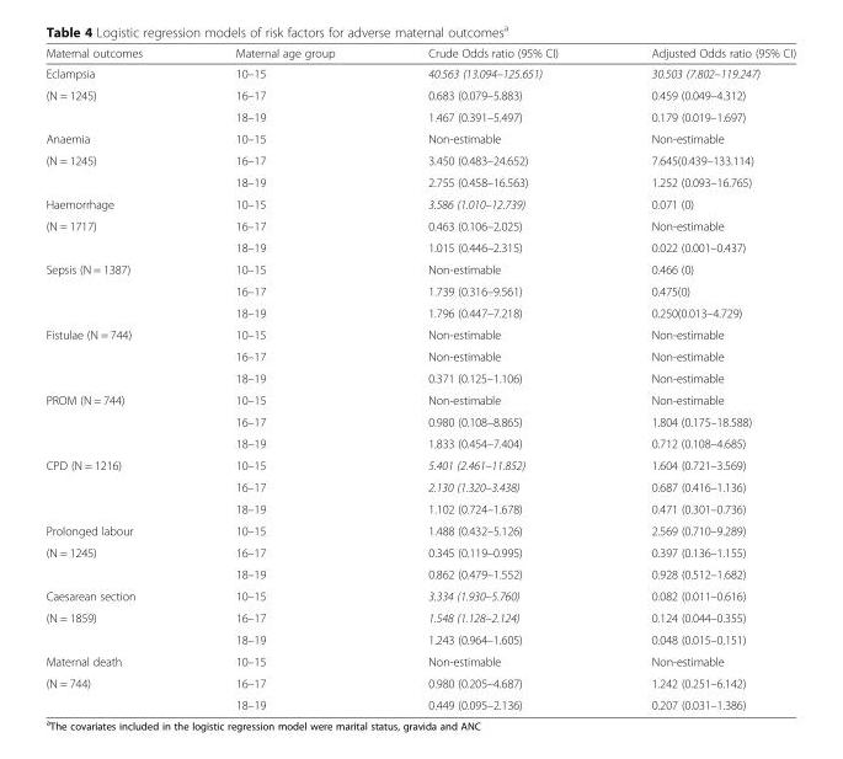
<table><thead><tr><td>Maternal outcomes</td><td>Maternal age group</td><td>Crude Odds ratio (95% CI)</td><td>Adjusted Odds ratio (95% CI)</td></tr></thead><tbody><tr><td>Eclampsia</td><td>10–15</td><td>40.563 (13.094–125.651)</td><td>30.503 (7.802–119.247)</td></tr><tr><td rowspan="2">(N = 1245)</td><td>16–17</td><td>0.683 (0.079–5.883)</td><td>0.459 (0.049–4.312)</td></tr><tr><td>18–19</td><td>1.467 (0.391–5.497)</td><td>0.179 (0.019–1.697)</td></tr><tr><td>Anaemia</td><td>10–15</td><td>Non-estimable</td><td>Non-estimable</td></tr><tr><td rowspan="2">(N = 1245)</td><td>16–17</td><td>3.450 (0.483–24.652)</td><td>7.645(0.439–133.114)</td></tr><tr><td>18–19</td><td>2.755 (0.458–16.563)</td><td>1.252 (0.093–16.765)</td></tr><tr><td>Haemorrhage</td><td>10–15</td><td>3.586 (1.010–12.739)</td><td>0.071 (0)</td></tr><tr><td rowspan="2">(N = 1717)</td><td>16–17</td><td>0.463 (0.106–2.025)</td><td>Non-estimable</td></tr><tr><td>18–19</td><td>1.015 (0.446–2.315)</td><td>0.022 (0.001–0.437)</td></tr><tr><td rowspan="3">Sepsis (N = 1387)</td><td>10–15</td><td>Non-estimable</td><td>0.466 (0)</td></tr><tr><td>16–17</td><td>1.739 (0.316–9.561)</td><td>0.475(0)</td></tr><tr><td>18–19</td><td>1.796 (0.447–7.218)</td><td>0.250(0.013–4.729)</td></tr><tr><td rowspan="3">Fistulae (N = 744)</td><td>10–15</td><td>Non-estimable</td><td>Non-estimable</td></tr><tr><td>16–17</td><td>Non-estimable</td><td>Non-estimable</td></tr><tr><td>18–19</td><td>0.371 (0.125–1.106)</td><td>Non-estimable</td></tr><tr><td rowspan="3">PROM (N = 744)</td><td>10–15</td><td>Non-estimable</td><td>Non-estimable</td></tr><tr><td>16–17</td><td>0.980 (0.108–8.865)</td><td>1.804 (0.175–18.588)</td></tr><tr><td>18–19</td><td>1.833 (0.454–7.404)</td><td>0.712 (0.108–4.685)</td></tr><tr><td rowspan="3">CPD (N = 1216)</td><td>10–15</td><td>5.401 (2.461–11.852)</td><td>1.604 (0.721–3.569)</td></tr><tr><td>16–17</td><td>2.130 (1.320–3.438)</td><td>0.687 (0.416–1.136)</td></tr><tr><td>18–19</td><td>1.102 (0.724–1.678)</td><td>0.471 (0.301–0.736)</td></tr><tr><td>Prolonged labour</td><td>10–15</td><td>1.488 (0.432–5.126)</td><td>2.569 (0.710–9.289)</td></tr><tr><td rowspan="2">(N = 1245)</td><td>16–17</td><td>0.345 (0.119–0.995)</td><td>0.397 (0.136–1.155)</td></tr><tr><td>18–19</td><td>0.862 (0.479–1.552)</td><td>0.928 (0.512–1.682)</td></tr><tr><td>Caesarean section</td><td>10–15</td><td>3.334 (1.930–5.760)</td><td>0.082 (0.011–0.616)</td></tr><tr><td rowspan="2">(N = 1859)</td><td>16–17</td><td>1.548 (1.128–2.124)</td><td>0.124 (0.044–0.355)</td></tr><tr><td>18–19</td><td>1.243 (0.964–1.605)</td><td>0.048 (0.015–0.151)</td></tr><tr><td>Maternal death</td><td>10–15</td><td>Non-estimable</td><td>Non-estimable</td></tr><tr><td rowspan="2">(N = 744)</td><td>16–17</td><td>0.980 (0.205–4.687)</td><td>1.242 (0.251–6.142)</td></tr><tr><td>18–19</td><td>0.449 (0.095–2.136)</td><td>0.207 (0.031–1.386)</td></tr></tbody></table>